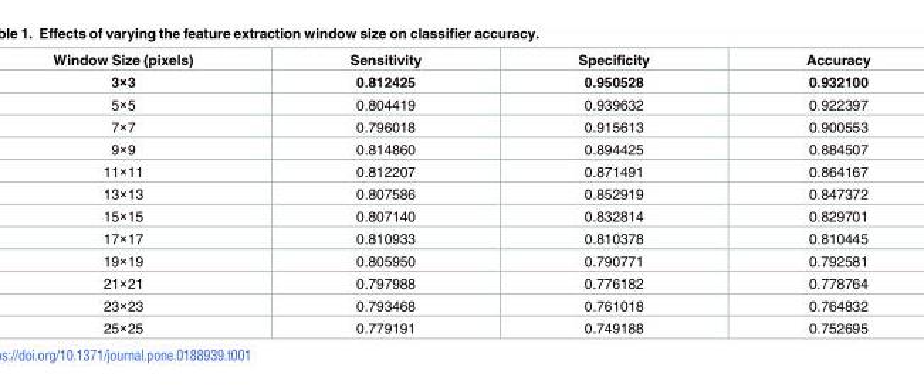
<table><thead><tr><td>Window Size (pixels)</td><td>Sensitivity</td><td>Specificity</td><td>Accuracy</td></tr></thead><tbody><tr><td>3×3</td><td>0.812425</td><td>0.950528</td><td>0.932100</td></tr><tr><td>5×5</td><td>0.804419</td><td>0.939632</td><td>0.922397</td></tr><tr><td>7×7</td><td>0.796018</td><td>0.915613</td><td>0.900553</td></tr><tr><td>9×9</td><td>0.814860</td><td>0.894425</td><td>0.884507</td></tr><tr><td>11×11</td><td>0.812207</td><td>0.871491</td><td>0.864167</td></tr><tr><td>13×13</td><td>0.807586</td><td>0.852919</td><td>0.847372</td></tr><tr><td>15×15</td><td>0.807140</td><td>0.832814</td><td>0.829701</td></tr><tr><td>17×17</td><td>0.810933</td><td>0.810378</td><td>0.810445</td></tr><tr><td>19×19</td><td>0.805950</td><td>0.790771</td><td>0.792581</td></tr><tr><td>21×21</td><td>0.797988</td><td>0.776182</td><td>0.778764</td></tr><tr><td>23×23</td><td>0.793468</td><td>0.761018</td><td>0.764832</td></tr><tr><td>25×25</td><td>0.779191</td><td>0.749188</td><td>0.752695</td></tr></tbody></table>